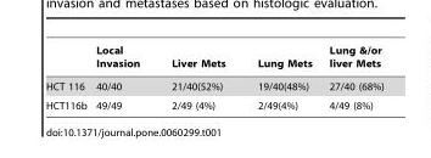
<table><thead><tr><td></td><td>Local Invasion</td><td>Liver Mets</td><td>Lung Mets</td><td>Lung &amp;/or liver Mets</td></tr></thead><tbody><tr><td>HCT 116</td><td>40/40</td><td>21/40(52%)</td><td>19/40(48%)</td><td>27/40 (68%)</td></tr><tr><td>HCT116b</td><td>49/49</td><td>2/49 (4%)</td><td>2/49(4%)</td><td>4/49 (8%)</td></tr></tbody></table>